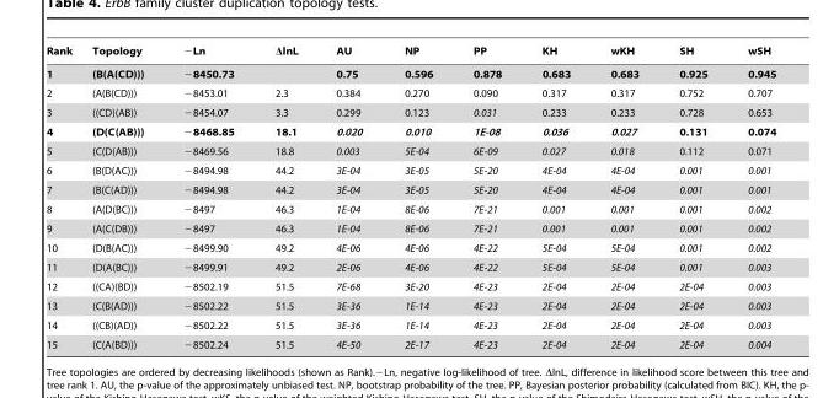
<table><thead><tr><td>Rank</td><td>Topology</td><td>−Ln</td><td>ΔlnL</td><td>AU</td><td>NP</td><td>PP</td><td>KH</td><td>wKH</td><td>SH</td><td>wSH</td></tr></thead><tbody><tr><td>1</td><td>(B(A(CD)))</td><td>−8450.73</td><td></td><td>0.75</td><td>0.596</td><td>0.878</td><td>0.683</td><td>0.683</td><td>0.925</td><td>0.945</td></tr><tr><td>2</td><td>(A(B(CD)))</td><td>−8453.01</td><td>2.3</td><td>0.384</td><td>0.270</td><td>0.090</td><td>0.317</td><td>0.317</td><td>0.752</td><td>0.707</td></tr><tr><td>3</td><td>((CD)(AB))</td><td>−8454.07</td><td>3.3</td><td>0.299</td><td>0.123</td><td>0.031</td><td>0.233</td><td>0.233</td><td>0.728</td><td>0.653</td></tr><tr><td>4</td><td>(D(C(AB)))</td><td>−8468.85</td><td>18.1</td><td>0.020</td><td>0.010</td><td>1E-08</td><td>0.036</td><td>0.027</td><td>0.131</td><td>0.074</td></tr><tr><td>5</td><td>(C(D(AB)))</td><td>−8469.56</td><td>18.8</td><td>0.003</td><td>5E-04</td><td>6E-09</td><td>0.027</td><td>0.018</td><td>0.112</td><td>0.071</td></tr><tr><td>6</td><td>(B(D(AC)))</td><td>−8494.98</td><td>44.2</td><td>3E-04</td><td>3E-05</td><td>5E-20</td><td>4E-04</td><td>4E-04</td><td>0.001</td><td>0.001</td></tr><tr><td>7</td><td>(B(C(AD)))</td><td>−8494.98</td><td>44.2</td><td>3E-04</td><td>3E-05</td><td>5E-20</td><td>4E-04</td><td>4E-04</td><td>0.001</td><td>0.001</td></tr><tr><td>8</td><td>(A(D(BC)))</td><td>−8497</td><td>46.3</td><td>1E-04</td><td>8E-06</td><td>7E-21</td><td>0.001</td><td>0.001</td><td>0.001</td><td>0.002</td></tr><tr><td>9</td><td>(A(C(DB)))</td><td>−8497</td><td>46.3</td><td>1E-04</td><td>8E-06</td><td>7E-21</td><td>0.001</td><td>0.001</td><td>0.001</td><td>0.002</td></tr><tr><td>10</td><td>(D(B(AC)))</td><td>−8499.90</td><td>49.2</td><td>4E-06</td><td>4E-06</td><td>4E-22</td><td>5E-04</td><td>5E-04</td><td>0.001</td><td>0.002</td></tr><tr><td>11</td><td>(D(A(BC)))</td><td>−8499.91</td><td>49.2</td><td>2E-06</td><td>4E-06</td><td>4E-22</td><td>5E-04</td><td>5E-04</td><td>0.001</td><td>0.003</td></tr><tr><td>12</td><td>((CA)(BD))</td><td>−8502.19</td><td>51.5</td><td>7E-68</td><td>3E-20</td><td>4E-23</td><td>2E-04</td><td>2E-04</td><td>2E-04</td><td>0.003</td></tr><tr><td>13</td><td>(C(B(AD)))</td><td>−8502.22</td><td>51.5</td><td>3E-36</td><td>1E-14</td><td>4E-23</td><td>2E-04</td><td>2E-04</td><td>2E-04</td><td>0.003</td></tr><tr><td>14</td><td>((CB)(AD))</td><td>−8502.22</td><td>51.5</td><td>3E-36</td><td>1E-14</td><td>4E-23</td><td>2E-04</td><td>2E-04</td><td>2E-04</td><td>0.003</td></tr><tr><td>15</td><td>(C(A(BD)))</td><td>−8502.24</td><td>51.5</td><td>4E-50</td><td>2E-17</td><td>4E-23</td><td>2E-04</td><td>2E-04</td><td>2E-04</td><td>0.004</td></tr></tbody></table>